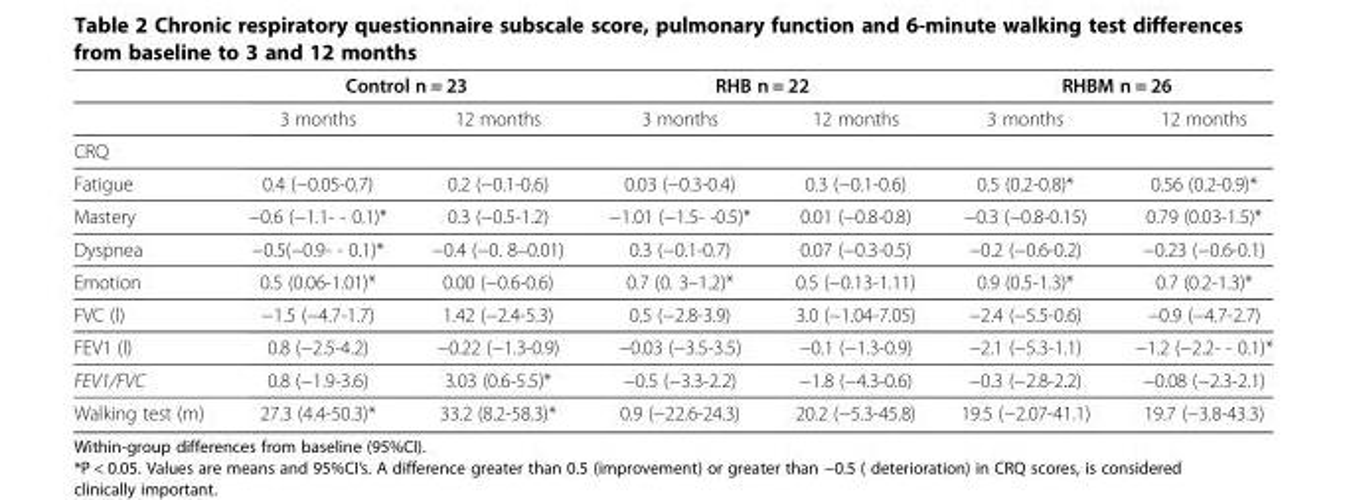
<table><thead><tr><td rowspan="2"></td><td colspan="2">Control n = 23</td><td colspan="2">RHB n = 22</td><td colspan="2">RHBM n = 26</td></tr><tr><td>3 months</td><td>12 months</td><td>3 months</td><td>12 months</td><td>3 months</td><td>12 months</td></tr></thead><tbody><tr><td colspan="7">CRQ</td></tr><tr><td>Fatigue</td><td>0.4 (−0.05-0.7)</td><td>0.2 (−0.1-0.6)</td><td>0.03 (−0.3-0.4)</td><td>0.3 (−0.1-0.6)</td><td>0.5 (0.2-0.8)*</td><td>0.56 (0.2-0.9)*</td></tr><tr><td>Mastery</td><td>−0.6 (−1.1- - 0.1)*</td><td>0.3 (−0.5-1.2)</td><td>−1.01 (−1.5- -0.5)*</td><td>0.01 (−0.8-0.8)</td><td>−0.3 (−0.8-0.15)</td><td>0.79 (0.03-1.5)*</td></tr><tr><td>Dyspnea</td><td>−0.5(−0.9- - 0.1)*</td><td>−0.4 (−0. 8–0.01)</td><td>0.3 (−0.1-0.7)</td><td>0.07 (−0.3-0.5)</td><td>−0.2 (−0.6-0.2)</td><td>−0.23 (−0.6-0.1)</td></tr><tr><td>Emotion</td><td>0.5 (0.06-1.01)*</td><td>0.00 (−0.6-0.6)</td><td>0.7 (0. 3–1.2)*</td><td>0.5 (−0.13-1.11)</td><td>0.9 (0.5-1.3)*</td><td>0.7 (0.2-1.3)*</td></tr><tr><td>FVC (l)</td><td>−1.5 (−4.7-1.7)</td><td>1.42 (−2.4-5.3)</td><td>0.5 (−2.8-3.9)</td><td>3.0 (−1.04-7.05)</td><td>−2.4 (−5.5-0.6)</td><td>−0.9 (−4.7-2.7)</td></tr><tr><td>FEV1 (l)</td><td>0.8 (−2.5-4.2)</td><td>−0.22 (−1.3-0.9)</td><td>−0.03 (−3.5-3.5)</td><td>−0.1 (−1.3-0.9)</td><td>−2.1 (−5.3-1.1)</td><td>−1.2 (−2.2- - 0.1)*</td></tr><tr><td>FEV1/FVC</td><td>0.8 (−1.9-3.6)</td><td>3.03 (0.6-5.5)*</td><td>−0.5 (−3.3-2.2)</td><td>−1.8 (−4.3-0.6)</td><td>−0.3 (−2.8-2.2)</td><td>−0.08 (−2.3-2.1)</td></tr><tr><td>Walking test (m)</td><td>27.3 (4.4-50.3)*</td><td>33.2 (8.2-58.3)*</td><td>0.9 (−22.6-24.3)</td><td>20.2 (−5.3-45.8)</td><td>19.5 (−2.07-41.1)</td><td>19.7 (−3.8-43.3)</td></tr></tbody></table>